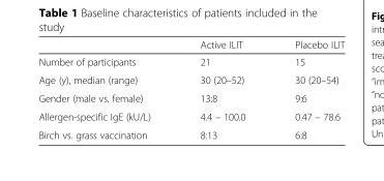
<table><thead><tr><td></td><td>Active ILIT</td><td>Placebo ILIT</td></tr></thead><tbody><tr><td>Number of participants</td><td>21</td><td>15</td></tr><tr><td>Age (y), median (range)</td><td>30 (20–52)</td><td>30 (20–54)</td></tr><tr><td>Gender (male vs. female)</td><td>13:8</td><td>9:6</td></tr><tr><td>Allergen-specific IgE (kU/L)</td><td>4.4 – 100.0</td><td>0.47 – 78.6</td></tr><tr><td>Birch vs. grass vaccination</td><td>8:13</td><td>6:8</td></tr></tbody></table>